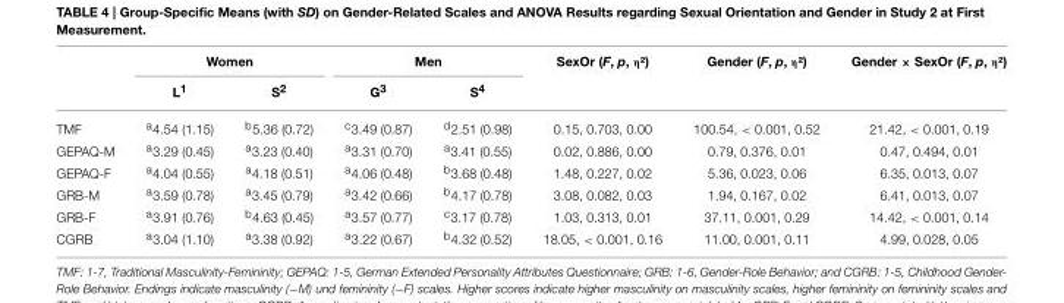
<table><thead><tr><td rowspan="2"></td><td colspan="2">Women</td><td colspan="2">Men</td><td rowspan="2">SexOr (F, p, η²)</td><td rowspan="2">Gender (F, p, η²)</td><td rowspan="2">Gender × SexOr (F, p, η²)</td></tr><tr><td>L<sup>1</sup></td><td>S<sup>2</sup></td><td>G<sup>3</sup></td><td>S<sup>4</sup></td></tr></thead><tbody><tr><td>TMF</td><td><sup>a</sup>4.54 (1.15)</td><td><sup>b</sup>5.36 (0.72)</td><td><sup>c</sup>3.49 (0.87)</td><td><sup>d</sup>2.51 (0.98)</td><td>0.15, 0.703, 0.00</td><td>100.54, &lt; 0.001, 0.52</td><td>21.42, &lt; 0.001, 0.19</td></tr><tr><td>GEPAQ-M</td><td><sup>a</sup>3.29 (0.45)</td><td><sup>a</sup>3.23 (0.40)</td><td><sup>a</sup>3.31 (0.70)</td><td><sup>a</sup>3.41 (0.55)</td><td>0.02, 0.886, 0.00</td><td>0.79, 0.376, 0.01</td><td>0.47, 0.494, 0.01</td></tr><tr><td>GEPAQ-F</td><td><sup>a</sup>4.04 (0.55)</td><td><sup>a</sup>4.18 (0.51)</td><td><sup>a</sup>4.06 (0.48)</td><td><sup>b</sup>3.68 (0.48)</td><td>1.48, 0.227, 0.02</td><td>5.36, 0.023, 0.06</td><td>6.35, 0.013, 0.07</td></tr><tr><td>GRB-M</td><td><sup>a</sup>3.59 (0.78)</td><td><sup>a</sup>3.45 (0.79)</td><td><sup>a</sup>3.42 (0.66)</td><td><sup>b</sup>4.17 (0.78)</td><td>3.08, 0.082, 0.03</td><td>1.94, 0.167, 0.02</td><td>6.41, 0.013, 0.07</td></tr><tr><td>GRB-F</td><td><sup>a</sup>3.91 (0.76)</td><td><sup>b</sup>4.63 (0.45)</td><td><sup>a</sup>3.57 (0.77)</td><td><sup>c</sup>3.17 (0.78)</td><td>1.03, 0.313, 0.01</td><td>37.11, 0.001, 0.29</td><td>14.42, &lt; 0.001, 0.14</td></tr><tr><td>CGRB</td><td><sup>a</sup>3.04 (1.10)</td><td><sup>a</sup>3.38 (0.92)</td><td><sup>a</sup>3.22 (0.67)</td><td><sup>b</sup>4.32 (0.52)</td><td>18.05, &lt; 0.001, 0.16</td><td>11.00, 0.001, 0.11</td><td>4.99, 0.028, 0.05</td></tr></tbody></table>